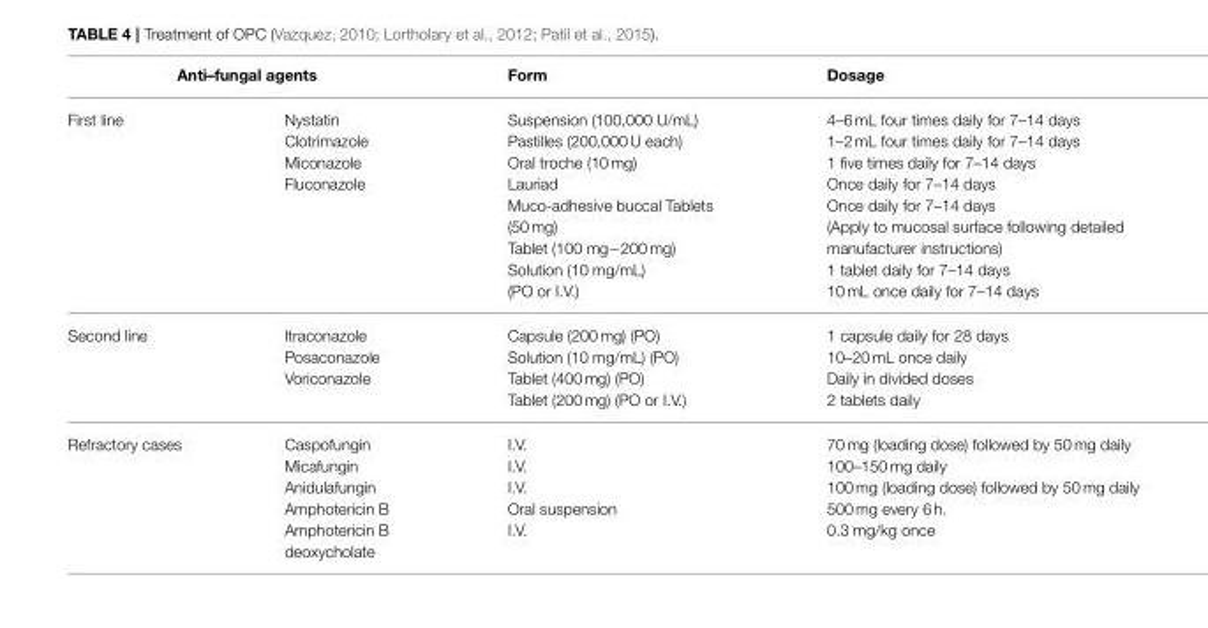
<table><thead><tr><td colspan="2">Anti–fungal agents</td><td rowspan="2">Form Suspension (100,000 U/mL) Pastilles (200,000 U each) Oral troche (10 mg) Lauriad Muco-adhesive buccal Tablets (50 mg) Tablet (100 mg−200 mg) Solution (10 mg/mL) (PO or I.V.)</td><td rowspan="2">Dosage 4–6 mL four times daily for 7–14 days 1–2 mL four times daily for 7–14 days 1 five times daily for 7–14 days Once daily for 7–14 days Once daily for 7–14 days (Apply to mucosal surface following detailed manufacturer instructions) 1 tablet daily for 7–14 days 10 mL once daily for 7–14 days</td></tr><tr><td>First line</td><td>Nystatin Clotrimazole Miconazole Fluconazole</td></tr></thead><tbody><tr><td>Second line</td><td>Itraconazole Posaconazole Voriconazole</td><td>Capsule (200 mg) (PO) Solution (10 mg/mL) (PO) Tablet (400 mg) (PO) Tablet (200 mg) (PO or I.V.)</td><td>1 capsule daily for 28 days 10–20 mL once daily Daily in divided doses 2 tablets daily</td></tr><tr><td>Refractory cases</td><td>Caspofungin Micafungin Anidulafungin Amphotericin B Amphotericin B deoxycholate</td><td>I.V. I.V. I.V. Oral suspension I.V.</td><td>70 mg (loading dose) followed by 50 mg daily 100–150 mg daily 100 mg (loading dose) followed by 50 mg daily 500 mg every 6 h. 0.3 mg/kg once</td></tr></tbody></table>